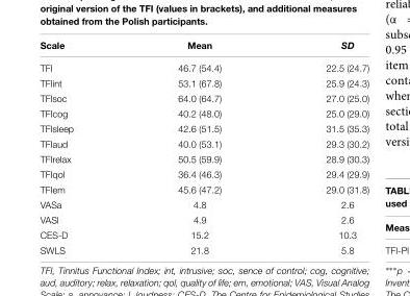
<table><thead><tr><td>Scale</td><td>Mean</td><td>SD</td></tr></thead><tbody><tr><td>TFI</td><td>46.7 (54.4)</td><td>22.5 (24.7)</td></tr><tr><td>TFIint</td><td>53.1 (67.8)</td><td>25.9 (24.3)</td></tr><tr><td>TFIsoc</td><td>64.0 (64.7)</td><td>27.0 (25.0)</td></tr><tr><td>TFIcog</td><td>40.2 (48.0)</td><td>25.0 (29.0)</td></tr><tr><td>TFIsleep</td><td>42.6 (51.5)</td><td>31.5 (35.3)</td></tr><tr><td>TFIaud</td><td>40.0 (53.1)</td><td>29.3 (30.2)</td></tr><tr><td>TFIrelax</td><td>50.5 (59.9)</td><td>28.9 (30.3)</td></tr><tr><td>TFIqol</td><td>36.4 (46.3)</td><td>29.4 (29.9)</td></tr><tr><td>TFIem</td><td>45.6 (47.2)</td><td>29.0 (31.8)</td></tr><tr><td>VASa</td><td>4.8</td><td>2.6</td></tr><tr><td>VASl</td><td>4.9</td><td>2.6</td></tr><tr><td>CES-D</td><td>15.2</td><td>10.3</td></tr><tr><td>SWLS</td><td>21.8</td><td>5.8</td></tr></tbody></table>